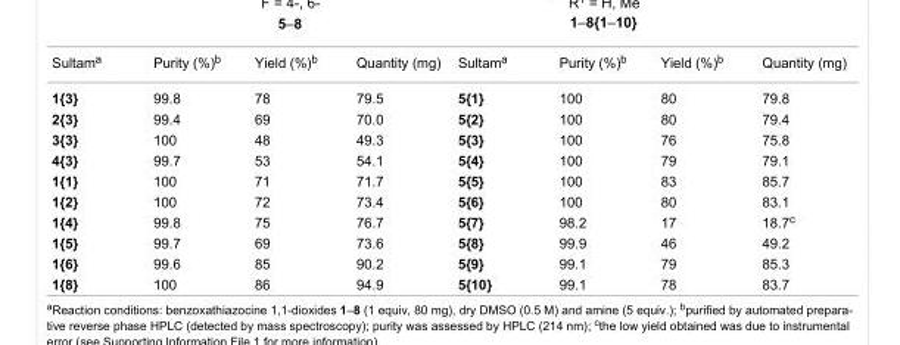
<table><tbody><tr><td>Sultam<sup>a</sup></td><td>Purity (%)<sup>b</sup></td><td>Yield (%)<sup>b</sup></td><td>Quantity (mg)</td><td>Sultam<sup>a</sup></td><td>Purity (%)<sup>b</sup></td><td>Yield (%)<sup>b</sup></td><td>Quantity (mg)</td></tr><tr><td>1{3}</td><td>99.8</td><td>78</td><td>79.5</td><td>5{1}</td><td>100</td><td>80</td><td>79.8</td></tr><tr><td>2{3}</td><td>99.4</td><td>69</td><td>70.0</td><td>5{2}</td><td>100</td><td>80</td><td>79.4</td></tr><tr><td>3{3}</td><td>100</td><td>48</td><td>49.3</td><td>5{3}</td><td>100</td><td>76</td><td>75.8</td></tr><tr><td>4{3}</td><td>99.7</td><td>53</td><td>54.1</td><td>5{4}</td><td>100</td><td>79</td><td>79.1</td></tr><tr><td>1{1}</td><td>100</td><td>71</td><td>71.7</td><td>5{5}</td><td>100</td><td>83</td><td>85.7</td></tr><tr><td>1{2}</td><td>100</td><td>72</td><td>73.4</td><td>5{6}</td><td>100</td><td>80</td><td>83.1</td></tr><tr><td>1{4}</td><td>99.8</td><td>75</td><td>76.7</td><td>5{7}</td><td>98.2</td><td>17</td><td>18.7<sup>c</sup></td></tr><tr><td>1{5}</td><td>99.7</td><td>69</td><td>73.6</td><td>5{8}</td><td>99.9</td><td>46</td><td>49.2</td></tr><tr><td>1{6}</td><td>99.6</td><td>85</td><td>90.2</td><td>5{9}</td><td>99.1</td><td>79</td><td>85.3</td></tr><tr><td>1{8}</td><td>100</td><td>86</td><td>94.9</td><td>5{10}</td><td>99.1</td><td>78</td><td>83.7</td></tr></tbody></table>